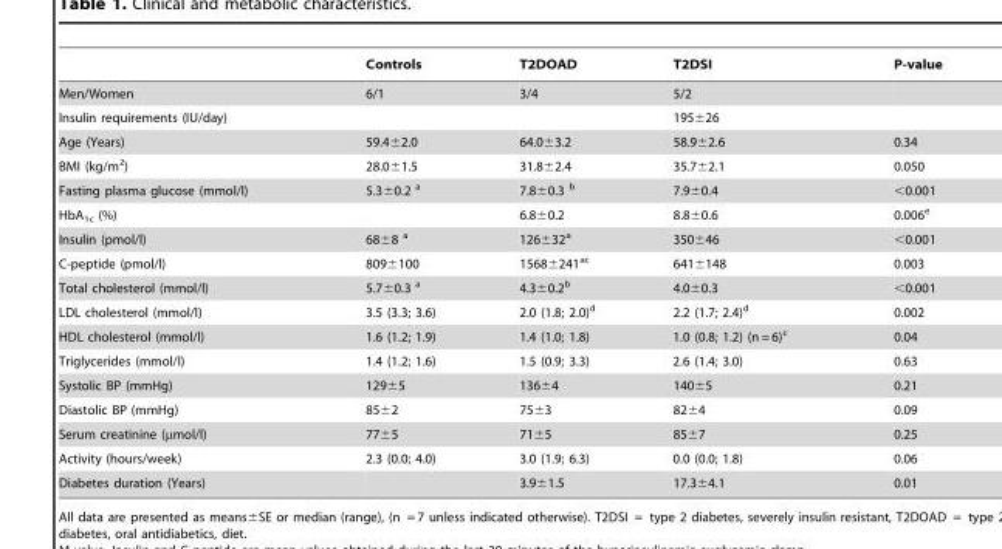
<table><thead><tr><td></td><td>Controls</td><td>T2DOAD</td><td>T2DSI</td><td>P-value</td></tr></thead><tbody><tr><td>Men/Women</td><td>6/1</td><td>3/4</td><td>5/2</td><td></td></tr><tr><td>Insulin requirements (IU/day)</td><td></td><td></td><td>195±26</td><td></td></tr><tr><td>Age (Years)</td><td>59.4±2.0</td><td>64.0±3.2</td><td>58.9±2.6</td><td>0.34</td></tr><tr><td>BMI (kg/m<sup>2</sup>)</td><td>28.0±1.5</td><td>31.8±2.4</td><td>35.7±2.1</td><td>0.050</td></tr><tr><td>Fasting plasma glucose (mmol/l)</td><td>5.3±0.2 <sup>a</sup></td><td>7.8±0.3 b</td><td>7.9±0.4</td><td>&lt;0.001</td></tr><tr><td>HbA<sub>1c</sub> (%)</td><td></td><td>6.8±0.2</td><td>8.8±0.6</td><td>0.006<sup>e</sup></td></tr><tr><td>Insulin (pmol/l)</td><td>68±8 <sup>a</sup></td><td>126±32<sup>a</sup></td><td>350±46</td><td>&lt;0.001</td></tr><tr><td>C-peptide (pmol/l)</td><td>809±100</td><td>1568±241<sup>ac</sup></td><td>641±148</td><td>0.003</td></tr><tr><td>Total cholesterol (mmol/l)</td><td>5.7±0.3 <sup>a</sup></td><td>4.3±0.2<sup>b</sup></td><td>4.0±0.3</td><td>&lt;0.001</td></tr><tr><td>LDL cholesterol (mmol/l)</td><td>3.5 (3.3; 3.6)</td><td>2.0 (1.8; 2.0)<sup>d</sup></td><td>2.2 (1.7; 2.4)<sup>d</sup></td><td>0.002</td></tr><tr><td>HDL cholesterol (mmol/l)</td><td>1.6 (1.2; 1.9)</td><td>1.4 (1.0; 1.8)</td><td>1.0 (0.8; 1.2) (n = 6)<sup>c</sup></td><td>0.04</td></tr><tr><td>Triglycerides (mmol/l)</td><td>1.4 (1.2; 1.6)</td><td>1.5 (0.9; 3.3)</td><td>2.6 (1.4; 3.0)</td><td>0.63</td></tr><tr><td>Systolic BP (mmHg)</td><td>129±5</td><td>136±4</td><td>140±5</td><td>0.21</td></tr><tr><td>Diastolic BP (mmHg)</td><td>85±2</td><td>75±3</td><td>82±4</td><td>0.09</td></tr><tr><td>Serum creatinine (μmol/l)</td><td>77±5</td><td>71±5</td><td>85±7</td><td>0.25</td></tr><tr><td>Activity (hours/week)</td><td>2.3 (0.0; 4.0)</td><td>3.0 (1.9; 6.3)</td><td>0.0 (0.0; 1.8)</td><td>0.06</td></tr><tr><td>Diabetes duration (Years)</td><td></td><td>3.9±1.5</td><td>17.3±4.1</td><td>0.01</td></tr></tbody></table>